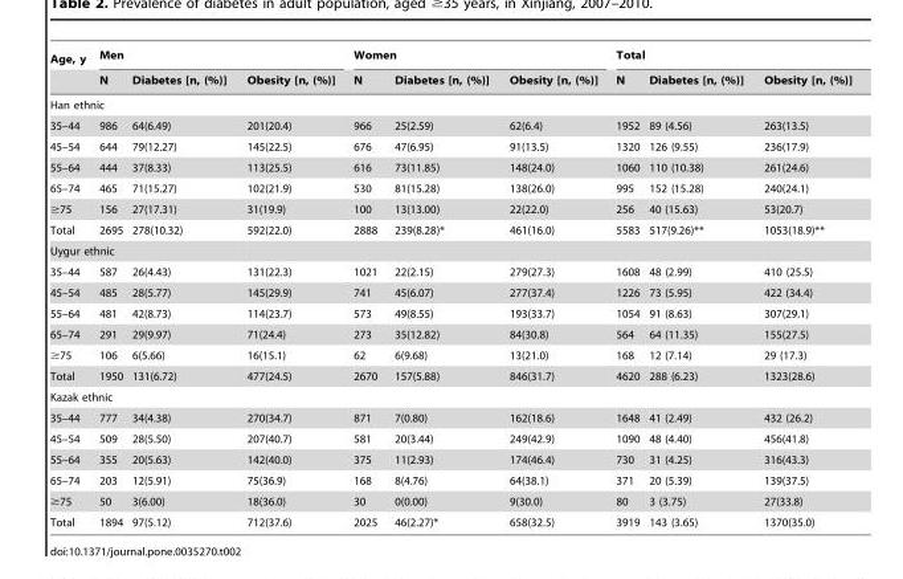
<table><thead><tr><td rowspan="2">Age, y</td><td colspan="3">Men</td><td colspan="3">Women</td><td colspan="3">Total</td></tr><tr><td>N</td><td>Diabetes [n, (%)]</td><td>Obesity [n, (%)]</td><td>N</td><td>Diabetes [n, (%)]</td><td>Obesity [n, (%)]</td><td>N</td><td>Diabetes [n, (%)]</td><td>Obesity [n, (%)]</td></tr></thead><tbody><tr><td colspan="10">Han ethnic</td></tr><tr><td>35–44</td><td>986</td><td>64(6.49)</td><td>201(20.4)</td><td>966</td><td>25(2.59)</td><td>62(6.4)</td><td>1952</td><td>89 (4.56)</td><td>263(13.5)</td></tr><tr><td>45–54</td><td>644</td><td>79(12.27)</td><td>145(22.5)</td><td>676</td><td>47(6.95)</td><td>91(13.5)</td><td>1320</td><td>126 (9.55)</td><td>236(17.9)</td></tr><tr><td>55–64</td><td>444</td><td>37(8.33)</td><td>113(25.5)</td><td>616</td><td>73(11.85)</td><td>148(24.0)</td><td>1060</td><td>110 (10.38)</td><td>261(24.6)</td></tr><tr><td>65–74</td><td>465</td><td>71(15.27)</td><td>102(21.9)</td><td>530</td><td>81(15.28)</td><td>138(26.0)</td><td>995</td><td>152 (15.28)</td><td>240(24.1)</td></tr><tr><td>≥75</td><td>156</td><td>27(17.31)</td><td>31(19.9)</td><td>100</td><td>13(13.00)</td><td>22(22.0)</td><td>256</td><td>40 (15.63)</td><td>53(20.7)</td></tr><tr><td>Total</td><td>2695</td><td>278(10.32)</td><td>592(22.0)</td><td>2888</td><td>239(8.28)*</td><td>461(16.0)</td><td>5583</td><td>517(9.26)**</td><td>1053(18.9)**</td></tr><tr><td colspan="10">Uygur ethnic</td></tr><tr><td>35–44</td><td>587</td><td>26(4.43)</td><td>131(22.3)</td><td>1021</td><td>22(2.15)</td><td>279(27.3)</td><td>1608</td><td>48 (2.99)</td><td>410 (25.5)</td></tr><tr><td>45–54</td><td>485</td><td>28(5.77)</td><td>145(29.9)</td><td>741</td><td>45(6.07)</td><td>277(37.4)</td><td>1226</td><td>73 (5.95)</td><td>422 (34.4)</td></tr><tr><td>55–64</td><td>481</td><td>42(8.73)</td><td>114(23.7)</td><td>573</td><td>49(8.55)</td><td>193(33.7)</td><td>1054</td><td>91 (8.63)</td><td>307(29.1)</td></tr><tr><td>65–74</td><td>291</td><td>29(9.97)</td><td>71(24.4)</td><td>273</td><td>35(12.82)</td><td>84(30.8)</td><td>564</td><td>64 (11.35)</td><td>155(27.5)</td></tr><tr><td>≥75</td><td>106</td><td>6(5.66)</td><td>16(15.1)</td><td>62</td><td>6(9.68)</td><td>13(21.0)</td><td>168</td><td>12 (7.14)</td><td>29 (17.3)</td></tr><tr><td>Total</td><td>1950</td><td>131(6.72)</td><td>477(24.5)</td><td>2670</td><td>157(5.88)</td><td>846(31.7)</td><td>4620</td><td>288 (6.23)</td><td>1323(28.6)</td></tr><tr><td colspan="10">Kazak ethnic</td></tr><tr><td>35–44</td><td>777</td><td>34(4.38)</td><td>270(34.7)</td><td>871</td><td>7(0.80)</td><td>162(18.6)</td><td>1648</td><td>41 (2.49)</td><td>432 (26.2)</td></tr><tr><td>45–54</td><td>509</td><td>28(5.50)</td><td>207(40.7)</td><td>581</td><td>20(3.44)</td><td>249(42.9)</td><td>1090</td><td>48 (4.40)</td><td>456(41.8)</td></tr><tr><td>55–64</td><td>355</td><td>20(5.63)</td><td>142(40.0)</td><td>375</td><td>11(2.93)</td><td>174(46.4)</td><td>730</td><td>31 (4.25)</td><td>316(43.3)</td></tr><tr><td>65–74</td><td>203</td><td>12(5.91)</td><td>75(36.9)</td><td>168</td><td>8(4.76)</td><td>64(38.1)</td><td>371</td><td>20 (5.39)</td><td>139(37.5)</td></tr><tr><td>≥75</td><td>50</td><td>3(6.00)</td><td>18(36.0)</td><td>30</td><td>0(0.00)</td><td>9(30.0)</td><td>80</td><td>3 (3.75)</td><td>27(33.8)</td></tr><tr><td>Total</td><td>1894</td><td>97(5.12)</td><td>712(37.6)</td><td>2025</td><td>46(2.27)*</td><td>658(32.5)</td><td>3919</td><td>143 (3.65)</td><td>1370(35.0)</td></tr></tbody></table>